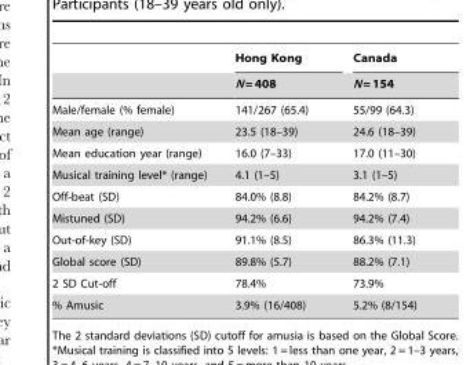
<table><thead><tr><td rowspan="2"></td><td rowspan="2">Hong Kong N = 408</td><td rowspan="2">Canada N = 154</td></tr><tr></tr></thead><tbody><tr><td>Male/female (% female)</td><td>141/267 (65.4)</td><td>55/99 (64.3)</td></tr><tr><td>Mean age (range)</td><td>23.5 (18–39)</td><td>24.6 (18–39)</td></tr><tr><td>Mean education year (range)</td><td>16.0 (7–33)</td><td>17.0 (11–30)</td></tr><tr><td>Musical training level* (range)</td><td>4.1 (1–5)</td><td>3.1 (1–5)</td></tr><tr><td>Off-beat (SD)</td><td>84.0% (8.8)</td><td>84.2% (8.7)</td></tr><tr><td>Mistuned (SD)</td><td>94.2% (6.6)</td><td>94.2% (7.4)</td></tr><tr><td>Out-of-key (SD)</td><td>91.1% (8.5)</td><td>86.3% (11.3)</td></tr><tr><td>Global score (SD)</td><td>89.8% (5.7)</td><td>88.2% (7.1)</td></tr><tr><td>2 SD Cut-off</td><td>78.4%</td><td>73.9%</td></tr><tr><td>% Amusic</td><td>3.9% (16/408)</td><td>5.2% (8/154)</td></tr></tbody></table>